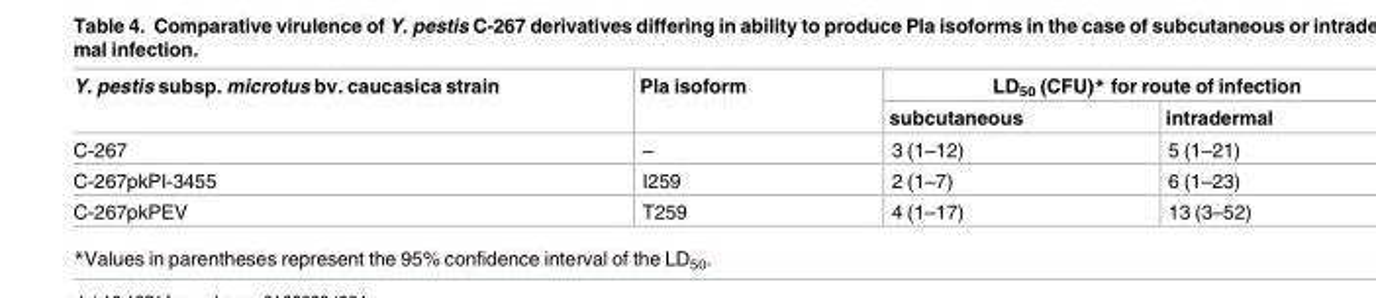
<table><thead><tr><td rowspan="2">Y. pestis subsp. microtus bv. caucasica strain</td><td rowspan="2">Pla isoform</td><td colspan="2">LD<sub>50</sub> (CFU)* for route of infection</td></tr><tr><td>subcutaneous</td><td>intradermal</td></tr></thead><tbody><tr><td>C-267</td><td>–</td><td>3 (1–12)</td><td>5 (1–21)</td></tr><tr><td>C-267pkPI-3455</td><td>I259</td><td>2 (1–7)</td><td>6 (1–23)</td></tr><tr><td>C-267pkPEV</td><td>T259</td><td>4 (1–17)</td><td>13 (3–52)</td></tr></tbody></table>